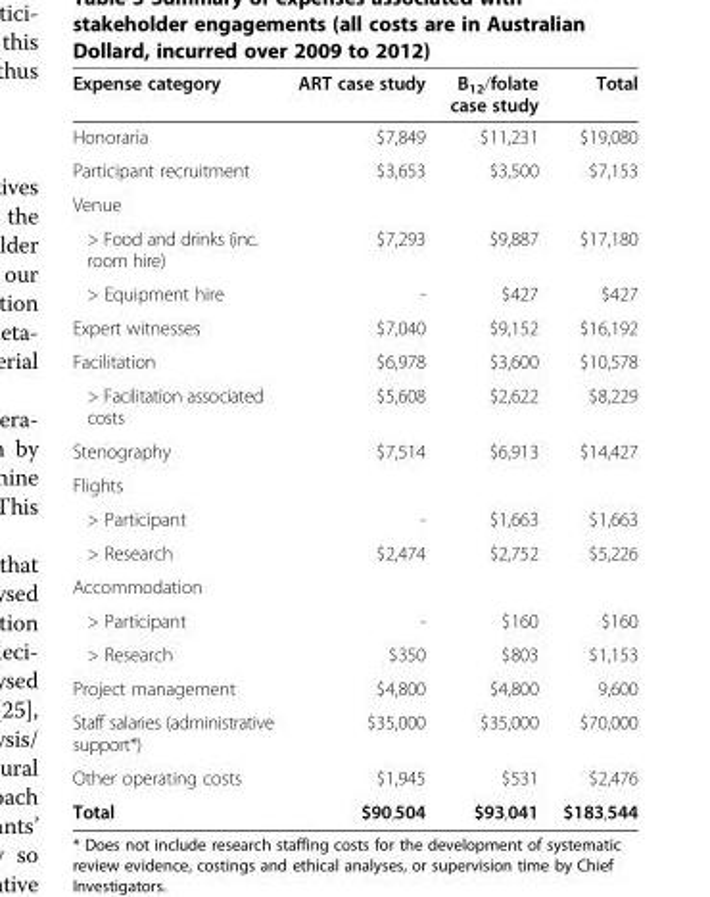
<table><thead><tr><td>Expense category</td><td>ART case study</td><td>B<sub>12</sub>/folate case study</td><td>Total</td></tr></thead><tbody><tr><td>Honoraria</td><td>$7,849</td><td>$11,231</td><td>$19,080</td></tr><tr><td>Participant recruitment</td><td>$3,653</td><td>$3,500</td><td>$7,153</td></tr><tr><td colspan="4">Venue</td></tr><tr><td>&gt; Food and drinks (inc. room hire)</td><td>$7,293</td><td>$9,887</td><td>$17,180</td></tr><tr><td>&gt; Equipment hire</td><td>-</td><td>$427</td><td>$427</td></tr><tr><td>Expert witnesses</td><td>$7,040</td><td>$9,152</td><td>$16,192</td></tr><tr><td>Facilitation</td><td>$6,978</td><td>$3,600</td><td>$10,578</td></tr><tr><td>&gt; Facilitation associated costs</td><td>$5,608</td><td>$2,622</td><td>$8,229</td></tr><tr><td>Stenography</td><td>$7,514</td><td>$6,913</td><td>$14,427</td></tr><tr><td colspan="4">Flights</td></tr><tr><td>&gt; Participant</td><td>-</td><td>$1,663</td><td>$1,663</td></tr><tr><td>&gt; Research</td><td>$2,474</td><td>$2,752</td><td>$5,226</td></tr><tr><td colspan="4">Accommodation</td></tr><tr><td rowspan="2">&gt; Participant &gt; Research</td><td>-</td><td>$160</td><td>$160</td></tr><tr><td>$350</td><td>$803</td><td>$1,153</td></tr><tr><td>Project management</td><td>$4,800</td><td>$4,800</td><td>9,600</td></tr><tr><td>Staff salaries (administrative support*)</td><td>$35,000</td><td>$35,000</td><td>$70,000</td></tr><tr><td>Other operating costs</td><td>$1,945</td><td>$531</td><td>$2,476</td></tr><tr><td>Total</td><td>$90,504</td><td>$93,041</td><td>$183,544</td></tr></tbody></table>